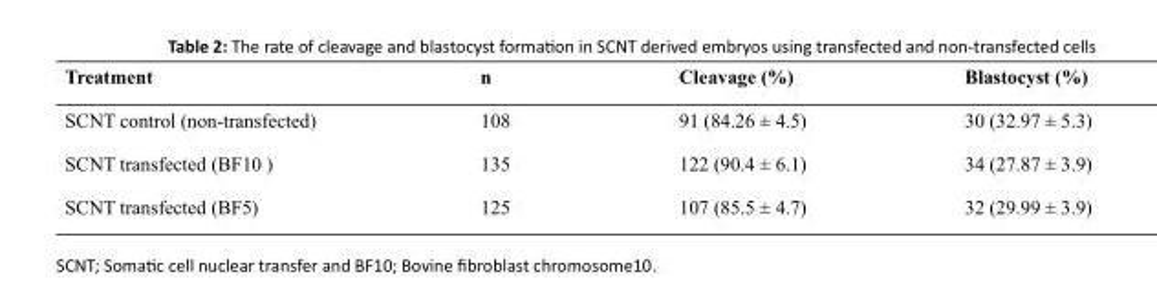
<table><thead><tr><td>Treatment</td><td>n</td><td>Cleavage (%)</td><td>Blastocyst (%)</td></tr></thead><tbody><tr><td>SCNT control (non-transfected)</td><td>108</td><td>91 (84.26 ± 4.5)</td><td>30 (32.97 ± 5.3)</td></tr><tr><td>SCNT transfected (BF10 )</td><td>135</td><td>122 (90.4 ± 6.1)</td><td>34 (27.87 ± 3.9)</td></tr><tr><td>SCNT transfected (BF5)</td><td>125</td><td>107 (85.5 ± 4.7)</td><td>32 (29.99 ± 3.9)</td></tr></tbody></table>